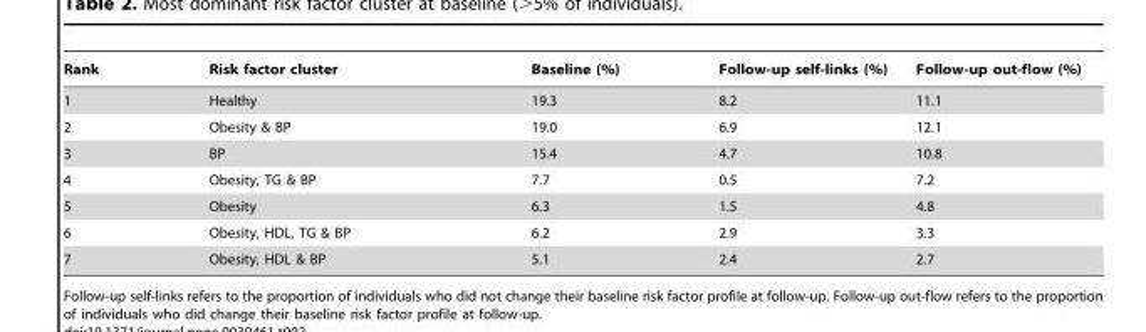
<table><thead><tr><td>Rank</td><td>Risk factor cluster</td><td>Baseline (%)</td><td>Follow-up self-links (%)</td><td>Follow-up out-flow (%)</td></tr></thead><tbody><tr><td>1</td><td>Healthy</td><td>19.3</td><td>8.2</td><td>11.1</td></tr><tr><td>2</td><td>Obesity &amp; BP</td><td>19.0</td><td>6.9</td><td>12.1</td></tr><tr><td>3</td><td>BP</td><td>15.4</td><td>4.7</td><td>10.8</td></tr><tr><td>4</td><td>Obesity, TG &amp; BP</td><td>7.7</td><td>0.5</td><td>7.2</td></tr><tr><td>5</td><td>Obesity</td><td>6.3</td><td>1.5</td><td>4.8</td></tr><tr><td>6</td><td>Obesity, HDL, TG &amp; BP</td><td>6.2</td><td>2.9</td><td>3.3</td></tr><tr><td>7</td><td>Obesity, HDL &amp; BP</td><td>5.1</td><td>2.4</td><td>2.7</td></tr></tbody></table>